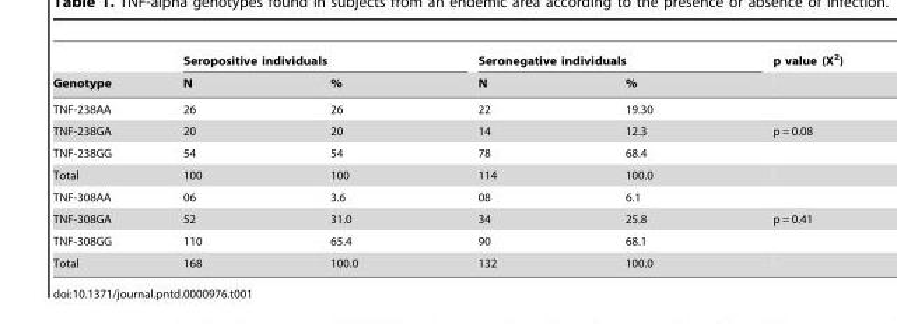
<table><thead><tr><td rowspan="2">Genotype</td><td colspan="2">Seropositive individuals</td><td colspan="2">Seronegative individuals</td><td rowspan="2">p value (X<sup>2</sup>)</td></tr><tr><td>N</td><td>%</td><td>N</td><td>%</td></tr></thead><tbody><tr><td>TNF-238AA</td><td>26</td><td>26</td><td>22</td><td>19.30</td><td></td></tr><tr><td>TNF-238GA</td><td>20</td><td>20</td><td>14</td><td>12.3</td><td>p = 0.08</td></tr><tr><td>TNF-238GG</td><td>54</td><td>54</td><td>78</td><td>68.4</td><td></td></tr><tr><td>Total</td><td>100</td><td>100</td><td>114</td><td>100.0</td><td></td></tr><tr><td>TNF-308AA</td><td>06</td><td>3.6</td><td>08</td><td>6.1</td><td></td></tr><tr><td>TNF-308GA</td><td>52</td><td>31.0</td><td>34</td><td>25.8</td><td>p = 0.41</td></tr><tr><td>TNF-308GG</td><td>110</td><td>65.4</td><td>90</td><td>68.1</td><td></td></tr><tr><td>Total</td><td>168</td><td>100.0</td><td>132</td><td>100.0</td><td></td></tr></tbody></table>